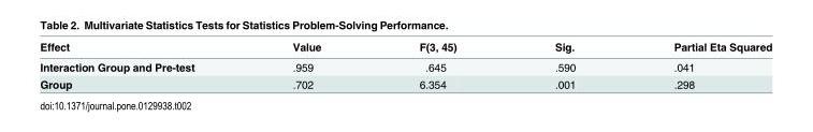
<table><thead><tr><td>Effect</td><td>Value</td><td>F(3, 45)</td><td>Sig.</td><td>Partial Eta Squared</td></tr></thead><tbody><tr><td>Interaction Group and Pre-test</td><td>.959</td><td>.645</td><td>.590</td><td>.041</td></tr><tr><td>Group</td><td>.702</td><td>6.354</td><td>.001</td><td>.298</td></tr></tbody></table>